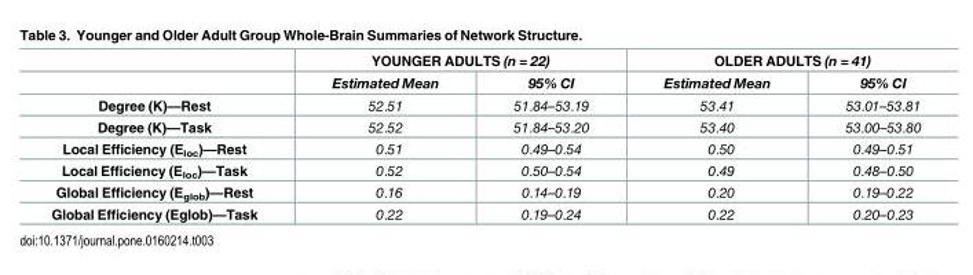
<table><thead><tr><td rowspan="2"></td><td colspan="2">YOUNGER ADULTS (n = 22)</td><td colspan="2">OLDER ADULTS (n = 41)</td></tr><tr><td>Estimated Mean</td><td>95% CI</td><td>Estimated Mean</td><td>95% CI</td></tr></thead><tbody><tr><td>Degree (K)—Rest</td><td>52.51</td><td>51.84–53.19</td><td>53.41</td><td>53.01–53.81</td></tr><tr><td>Degree (K)—Task</td><td>52.52</td><td>51.84–53.20</td><td>53.40</td><td>53.00–53.80</td></tr><tr><td>Local Efficiency (E<sub>loc</sub>)—Rest</td><td>0.51</td><td>0.49–0.54</td><td>0.50</td><td>0.49–0.51</td></tr><tr><td>Local Efficiency (E<sub>loc</sub>)—Task</td><td>0.52</td><td>0.50–0.54</td><td>0.49</td><td>0.48–0.50</td></tr><tr><td>Global Efficiency (E<sub>glob</sub>)—Rest</td><td>0.16</td><td>0.14–0.19</td><td>0.20</td><td>0.19–0.22</td></tr><tr><td>Global Efficiency (Eglob)—Task</td><td>0.22</td><td>0.19–0.24</td><td>0.22</td><td>0.20–0.23</td></tr></tbody></table>